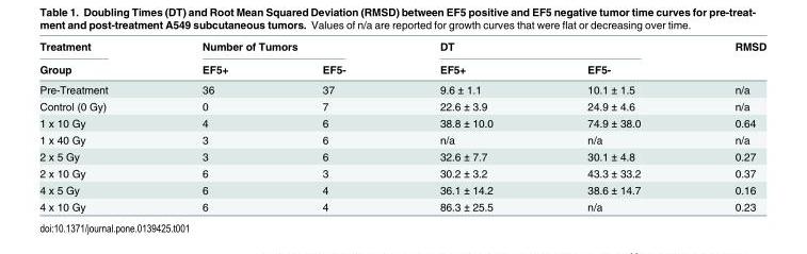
<table><thead><tr><td rowspan="2">Treatment Group</td><td colspan="2">Number of Tumors</td><td colspan="2">DT</td><td rowspan="2">RMSD</td></tr><tr><td>EF5+</td><td>EF5-</td><td>EF5+</td><td>EF5-</td></tr></thead><tbody><tr><td>Pre-Treatment</td><td>36</td><td>37</td><td>9.6 ± 1.1</td><td>10.1 ± 1.5</td><td>n/a</td></tr><tr><td>Control (0 Gy)</td><td>0</td><td>7</td><td>22.6 ± 3.9</td><td>24.9 ± 4.6</td><td>n/a</td></tr><tr><td>1 x 10 Gy</td><td>4</td><td>6</td><td>38.8 ± 10.0</td><td>74.9 ± 38.0</td><td>0.64</td></tr><tr><td>1 x 40 Gy</td><td>3</td><td>6</td><td>n/a</td><td>n/a</td><td>n/a</td></tr><tr><td>2 x 5 Gy</td><td>3</td><td>6</td><td>32.6 ± 7.7</td><td>30.1 ± 4.8</td><td>0.27</td></tr><tr><td>2 x 10 Gy</td><td>6</td><td>3</td><td>30.2 ± 3.2</td><td>43.3 ± 33.2</td><td>0.37</td></tr><tr><td>4 x 5 Gy</td><td>6</td><td>4</td><td>36.1 ± 14.2</td><td>38.6 ± 14.7</td><td>0.16</td></tr><tr><td>4 x 10 Gy</td><td>6</td><td>4</td><td>86.3 ± 25.5</td><td>n/a</td><td>0.23</td></tr></tbody></table>